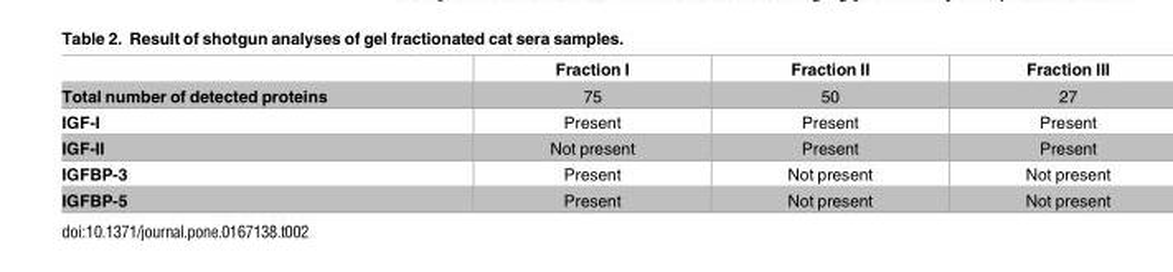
<table><thead><tr><td></td><td>Fraction I</td><td>Fraction II</td><td>Fraction III</td></tr></thead><tbody><tr><td>Total number of detected proteins</td><td>75</td><td>50</td><td>27</td></tr><tr><td>IGF-I</td><td>Present</td><td>Present</td><td>Present</td></tr><tr><td>IGF-II</td><td>Not present</td><td>Present</td><td>Present</td></tr><tr><td>IGFBP-3</td><td>Present</td><td>Not present</td><td>Not present</td></tr><tr><td>IGFBP-5</td><td>Present</td><td>Not present</td><td>Not present</td></tr></tbody></table>